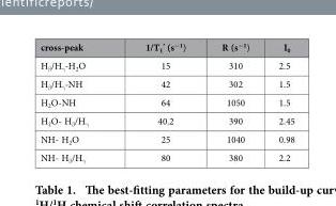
<table><thead><tr><td>cross-peak</td><td>1/T<sub>1</sub> * (s<sup>−1</sup>)</td><td>R (s<sup>−1</sup>)</td><td>I<sub>0</sub></td></tr></thead><tbody><tr><td>H<sub>β</sub>/H<sub>γ</sub>-H<sub>2</sub>O</td><td>15</td><td>310</td><td>2.5</td></tr><tr><td>H<sub>β</sub>/H<sub>γ</sub>-NH</td><td>42</td><td>302</td><td>1.5</td></tr><tr><td>H<sub>2</sub>O-NH</td><td>64</td><td>1050</td><td>1.5</td></tr><tr><td>H<sub>2</sub>O- H<sub>β</sub>/H<sub>γ</sub></td><td>40.2</td><td>390</td><td>2.45</td></tr><tr><td>NH- H<sub>2</sub>O</td><td>25</td><td>1040</td><td>0.98</td></tr><tr><td>NH- H<sub>β</sub>/H<sub>γ</sub></td><td>80</td><td>380</td><td>2.2</td></tr></tbody></table>